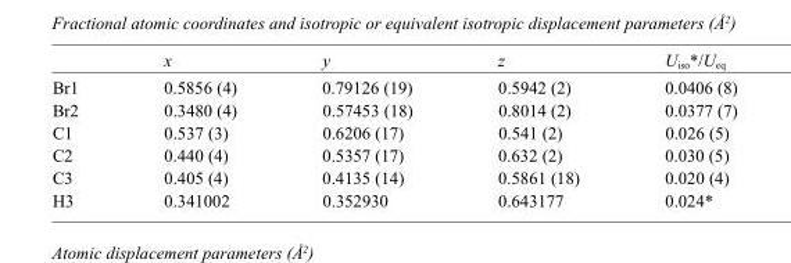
<table><thead><tr><td></td><td>x</td><td>y</td><td>z</td><td>U<sub>iso</sub>*/U<sub>eq</sub></td></tr></thead><tbody><tr><td>Br1</td><td>0.5856 (4)</td><td>0.79126 (19)</td><td>0.5942 (2)</td><td>0.0406 (8)</td></tr><tr><td>Br2</td><td>0.3480 (4)</td><td>0.57453 (18)</td><td>0.8014 (2)</td><td>0.0377 (7)</td></tr><tr><td>C1</td><td>0.537 (3)</td><td>0.6206 (17)</td><td>0.541 (2)</td><td>0.026 (5)</td></tr><tr><td>C2</td><td>0.440 (4)</td><td>0.5357 (17)</td><td>0.632 (2)</td><td>0.030 (5)</td></tr><tr><td>C3</td><td>0.405 (4)</td><td>0.4135 (14)</td><td>0.5861 (18)</td><td>0.020 (4)</td></tr><tr><td>H3</td><td>0.341002</td><td>0.352930</td><td>0.643177</td><td>0.024*</td></tr></tbody></table>